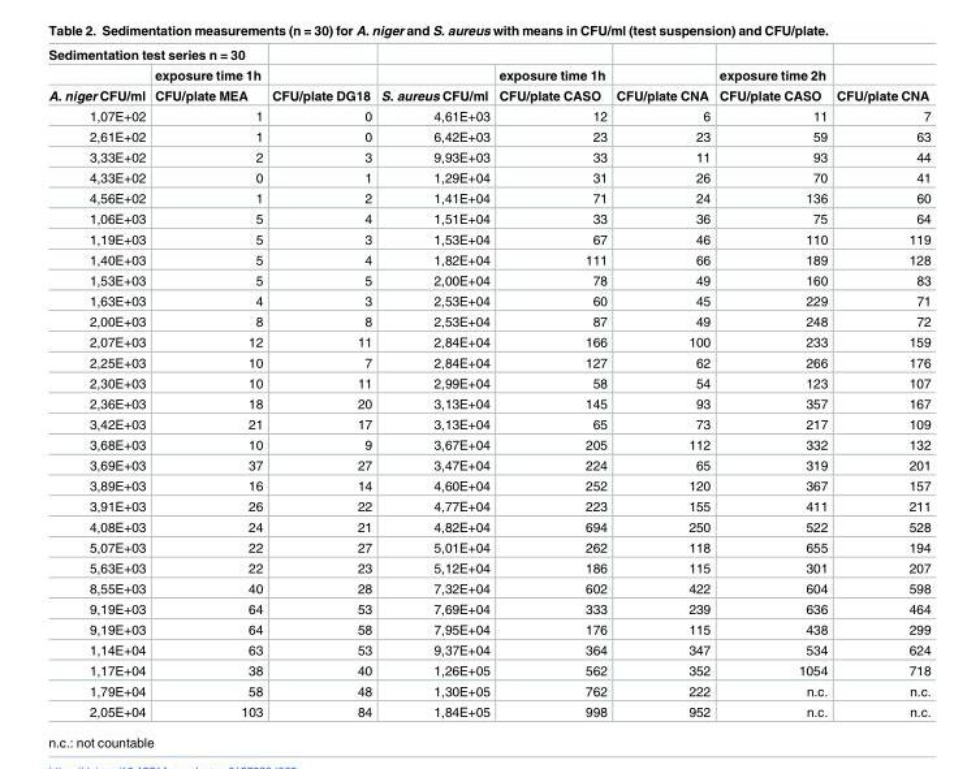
<table><thead><tr><td colspan="2">Sedimentation test series n = 30</td><td rowspan="3">CFU/plate DG18</td><td rowspan="3">S. aureus CFU/ml</td><td rowspan="3">exposure time 1h CFU/plate CASO</td><td rowspan="3">CFU/plate CNA</td><td rowspan="3">exposure time 2h CFU/plate CASO</td><td rowspan="3">CFU/plate CNA</td></tr><tr><td rowspan="2">A. niger CFU/ml</td><td rowspan="2">exposure time 1h CFU/plate MEA</td></tr><tr></tr></thead><tbody><tr><td>1,07E+02</td><td>1</td><td>0</td><td>4,61E+03</td><td>12</td><td>6</td><td>11</td><td>7</td></tr><tr><td>2,61E+02</td><td>1</td><td>0</td><td>6,42E+03</td><td>23</td><td>23</td><td>59</td><td>63</td></tr><tr><td>3,33E+02</td><td>2</td><td>3</td><td>9,93E+03</td><td>33</td><td>11</td><td>93</td><td>44</td></tr><tr><td>4,33E+02</td><td>0</td><td>1</td><td>1,29E+04</td><td>31</td><td>26</td><td>70</td><td>41</td></tr><tr><td>4,56E+02</td><td>1</td><td>2</td><td>1,41E+04</td><td>71</td><td>24</td><td>136</td><td>60</td></tr><tr><td>1,06E+03</td><td>5</td><td>4</td><td>1,51E+04</td><td>33</td><td>36</td><td>75</td><td>64</td></tr><tr><td>1,19E+03</td><td>5</td><td>3</td><td>1,53E+04</td><td>67</td><td>46</td><td>110</td><td>119</td></tr><tr><td>1,40E+03</td><td>5</td><td>4</td><td>1,82E+04</td><td>111</td><td>66</td><td>189</td><td>128</td></tr><tr><td>1,53E+03</td><td>5</td><td>5</td><td>2,00E+04</td><td>78</td><td>49</td><td>160</td><td>83</td></tr><tr><td>1,63E+03</td><td>4</td><td>3</td><td>2,53E+04</td><td>60</td><td>45</td><td>229</td><td>71</td></tr><tr><td>2,00E+03</td><td>8</td><td>8</td><td>2,53E+04</td><td>87</td><td>49</td><td>248</td><td>72</td></tr><tr><td>2,07E+03</td><td>12</td><td>11</td><td>2,84E+04</td><td>166</td><td>100</td><td>233</td><td>159</td></tr><tr><td>2,25E+03</td><td>10</td><td>7</td><td>2,84E+04</td><td>127</td><td>62</td><td>266</td><td>176</td></tr><tr><td>2,30E+03</td><td>10</td><td>11</td><td>2,99E+04</td><td>58</td><td>54</td><td>123</td><td>107</td></tr><tr><td>2,36E+03</td><td>18</td><td>20</td><td>3,13E+04</td><td>145</td><td>93</td><td>357</td><td>167</td></tr><tr><td>3,42E+03</td><td>21</td><td>17</td><td>3,13E+04</td><td>65</td><td>73</td><td>217</td><td>109</td></tr><tr><td>3,68E+03</td><td>10</td><td>9</td><td>3,67E+04</td><td>205</td><td>112</td><td>332</td><td>132</td></tr><tr><td>3,69E+03</td><td>37</td><td>27</td><td>3,47E+04</td><td>224</td><td>65</td><td>319</td><td>201</td></tr><tr><td>3,89E+03</td><td>16</td><td>14</td><td>4,60E+04</td><td>252</td><td>120</td><td>367</td><td>157</td></tr><tr><td>3,91E+03</td><td>26</td><td>22</td><td>4,77E+04</td><td>223</td><td>155</td><td>411</td><td>211</td></tr><tr><td>4,08E+03</td><td>24</td><td>21</td><td>4,82E+04</td><td>694</td><td>250</td><td>522</td><td>528</td></tr><tr><td>5,07E+03</td><td>22</td><td>27</td><td>5,01E+04</td><td>262</td><td>118</td><td>655</td><td>194</td></tr><tr><td>5,63E+03</td><td>22</td><td>23</td><td>5,12E+04</td><td>186</td><td>115</td><td>301</td><td>207</td></tr><tr><td>8,55E+03</td><td>40</td><td>28</td><td>7,32E+04</td><td>602</td><td>422</td><td>604</td><td>598</td></tr><tr><td>9,19E+03</td><td>64</td><td>53</td><td>7,69E+04</td><td>333</td><td>239</td><td>636</td><td>464</td></tr><tr><td>9,19E+03</td><td>64</td><td>58</td><td>7,95E+04</td><td>176</td><td>115</td><td>438</td><td>299</td></tr><tr><td>1,14E+04</td><td>63</td><td>53</td><td>9,37E+04</td><td>364</td><td>347</td><td>534</td><td>624</td></tr><tr><td>1,17E+04</td><td>38</td><td>40</td><td>1,26E+05</td><td>562</td><td>352</td><td>1054</td><td>718</td></tr><tr><td>1,79E+04</td><td>58</td><td>48</td><td>1,30E+05</td><td>762</td><td>222</td><td>n.c.</td><td>n.c.</td></tr><tr><td>2,05E+04</td><td>103</td><td>84</td><td>1,84E+05</td><td>998</td><td>952</td><td>n.c.</td><td>n.c.</td></tr></tbody></table>